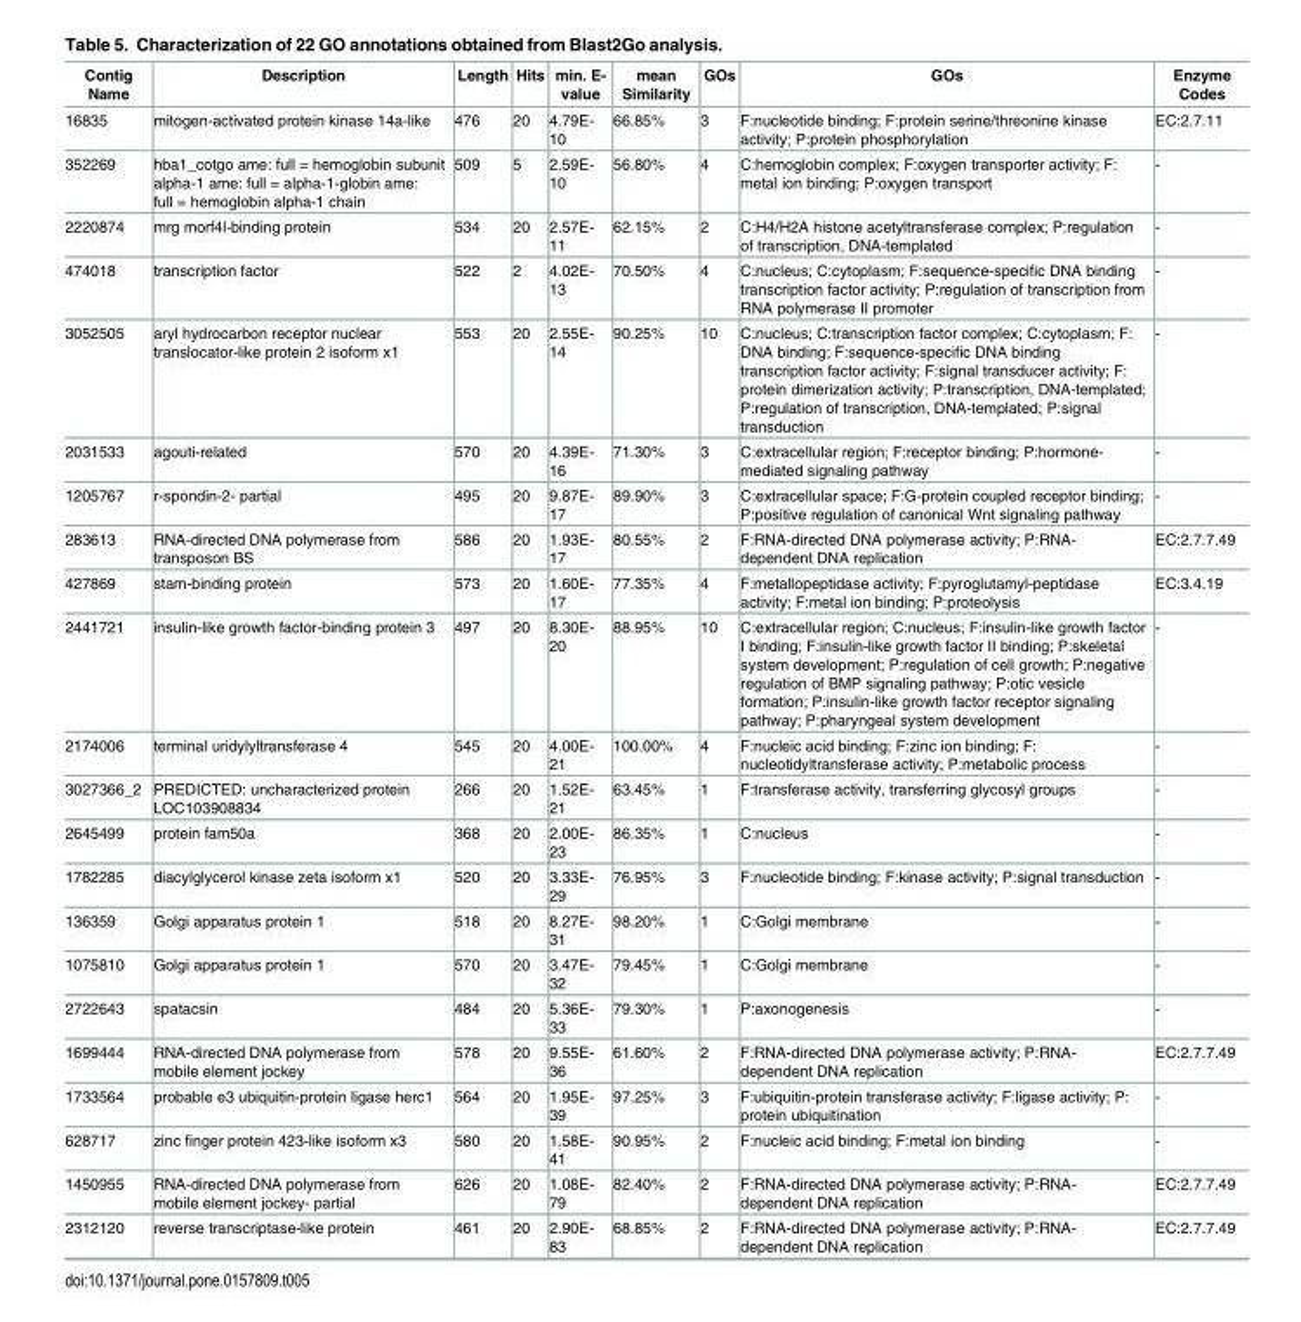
<table><thead><tr><td>Contig Name</td><td>Description</td><td>Length</td><td>Hits</td><td>min. E- value</td><td>mean Similarity</td><td>GOs</td><td>GOs</td><td>Enzyme Codes</td></tr></thead><tbody><tr><td>16835</td><td>mitogen-activated protein kinase 14a-like</td><td>476</td><td>20</td><td>4.79E- 10</td><td>66.85%</td><td>3</td><td>F:nucleotide binding; F:protein serine/threonine kinase activity; P:protein phosphorylation</td><td>EC:2.7.11</td></tr><tr><td>352269</td><td>hba1_cotgo ame: full = hemoglobin subunit alpha-1 ame: full = alpha-1-globin ame: full = hemoglobin alpha-1 chain</td><td>509</td><td>5</td><td>2.59E- 10</td><td>56.80%</td><td>4</td><td>C:hemoglobin complex; F:oxygen transporter activity; F: metal ion binding; P:oxygen transport</td><td>-</td></tr><tr><td>2220874</td><td>mrg morf4l-binding protein</td><td>534</td><td>20</td><td>2.57E- 11</td><td>62.15%</td><td>2</td><td>C:H4/H2A histone acetyltransferase complex; P:regulation of transcription, DNA-templated</td><td>-</td></tr><tr><td>474018</td><td>transcription factor</td><td>522</td><td>2</td><td>4.02E- 13</td><td>70.50%</td><td>4</td><td>C:nucleus; C:cytoplasm; F:sequence-specific DNA binding transcription factor activity; P:regulation of transcription from RNA polymerase II promoter</td><td>-</td></tr><tr><td>3052505</td><td>aryl hydrocarbon receptor nuclear translocator-like protein 2 isoform x1</td><td>553</td><td>20</td><td>2.55E- 14</td><td>90.25%</td><td>10</td><td>C:nucleus; C:transcription factor complex; C:cytoplasm; F: DNA binding; F:sequence-specific DNA binding transcription factor activity; F:signal transducer activity; F: protein dimerization activity; P:transcription, DNA-templated; P:regulation of transcription, DNA-templated; P:signal transduction</td><td>-</td></tr><tr><td>2031533</td><td>agouti-related</td><td>570</td><td>20</td><td>4.39E- 16</td><td>71.30%</td><td>3</td><td>C:extracellular region; F:receptor binding; P:hormone- mediated signaling pathway</td><td>-</td></tr><tr><td>1205767</td><td>r-spondin-2- partial</td><td>495</td><td>20</td><td>9.87E- 17</td><td>89.90%</td><td>3</td><td>C:extracellular space; F:G-protein coupled receptor binding; P:positive regulation of canonical Wnt signaling pathway</td><td>-</td></tr><tr><td>283613</td><td>RNA-directed DNA polymerase from transposon BS</td><td>586</td><td>20</td><td>1.93E- 17</td><td>80.55%</td><td>2</td><td>F:RNA-directed DNA polymerase activity; P:RNA- dependent DNA replication</td><td>EC:2.7.7.49</td></tr><tr><td>427869</td><td>stam-binding protein</td><td>573</td><td>20</td><td>1.60E- 17</td><td>77.35%</td><td>4</td><td>F:metallopeptidase activity; F:pyroglutamyl-peptidase activity; F:metal ion binding; P:proteolysis</td><td>EC:3.4.19</td></tr><tr><td>2441721</td><td>insulin-like growth factor-binding protein 3</td><td>497</td><td>20</td><td>8.30E- 20</td><td>88.95%</td><td>10</td><td>C:extracellular region; C:nucleus; F:insulin-like growth factor I binding; F:insulin-like growth factor II binding; P:skeletal system development; P:regulation of cell growth; P:negative regulation of BMP signaling pathway; P:otic vesicle formation; P:insulin-like growth factor receptor signaling pathway; P:pharyngeal system development</td><td>-</td></tr><tr><td>2174006</td><td>terminal uridylyltransferase 4</td><td>545</td><td>20</td><td>4.00E- 21</td><td>100.00%</td><td>4</td><td>F:nucleic acid binding; F:zinc ion binding; F: nucleotidyltransferase activity; P:metabolic process</td><td>-</td></tr><tr><td>3027366_2</td><td>PREDICTED: uncharacterized protein LOC103908834</td><td>266</td><td>20</td><td>1.52E- 21</td><td>63.45%</td><td>1</td><td>F:transferase activity, transferring glycosyl groups</td><td>-</td></tr><tr><td>2645499</td><td>protein fam50a</td><td>368</td><td>20</td><td>2.00E- 23</td><td>86.35%</td><td>1</td><td>C:nucleus</td><td>-</td></tr><tr><td>1782285</td><td>diacylglycerol kinase zeta isoform x1</td><td>520</td><td>20</td><td>3.33E- 29</td><td>76.95%</td><td>3</td><td>F:nucleotide binding; F:kinase activity; P:signal transduction</td><td>-</td></tr><tr><td>136359</td><td>Golgi apparatus protein 1</td><td>518</td><td>20</td><td>8.27E- 31</td><td>98.20%</td><td>1</td><td>C:Golgi membrane</td><td>-</td></tr><tr><td>1075810</td><td>Golgi apparatus protein 1</td><td>570</td><td>20</td><td>3.47E- 32</td><td>79.45%</td><td>1</td><td>C:Golgi membrane</td><td>-</td></tr><tr><td>2722643</td><td>spatacsin</td><td>484</td><td>20</td><td>5.36E- 33</td><td>79.30%</td><td>1</td><td>P:axonogenesis</td><td>-</td></tr><tr><td>1699444</td><td>RNA-directed DNA polymerase from mobile element jockey</td><td>578</td><td>20</td><td>9.55E- 36</td><td>61.60%</td><td>2</td><td>F:RNA-directed DNA polymerase activity; P:RNA- dependent DNA replication</td><td>EC:2.7.7.49</td></tr><tr><td>1733564</td><td>probable e3 ubiquitin-protein ligase herc1</td><td>564</td><td>20</td><td>1.95E- 39</td><td>97.25%</td><td>3</td><td>F:ubiquitin-protein transferase activity; F:ligase activity; P: protein ubiquitination</td><td>-</td></tr><tr><td>628717</td><td>zinc finger protein 423-like isoform x3</td><td>580</td><td>20</td><td>1.58E- 41</td><td>90.95%</td><td>2</td><td>F:nucleic acid binding; F:metal ion binding</td><td>-</td></tr><tr><td>1450955</td><td>RNA-directed DNA polymerase from mobile element jockey- partial</td><td>626</td><td>20</td><td>1.08E- 79</td><td>82.40%</td><td>2</td><td>F:RNA-directed DNA polymerase activity; P:RNA- dependent DNA replication</td><td>EC:2.7.7.49</td></tr><tr><td>2312120</td><td>reverse transcriptase-like protein</td><td>461</td><td>20</td><td>2.90E- 83</td><td>68.85%</td><td>2</td><td>F:RNA-directed DNA polymerase activity; P:RNA- dependent DNA replication</td><td>EC:2.7.7.49</td></tr></tbody></table>